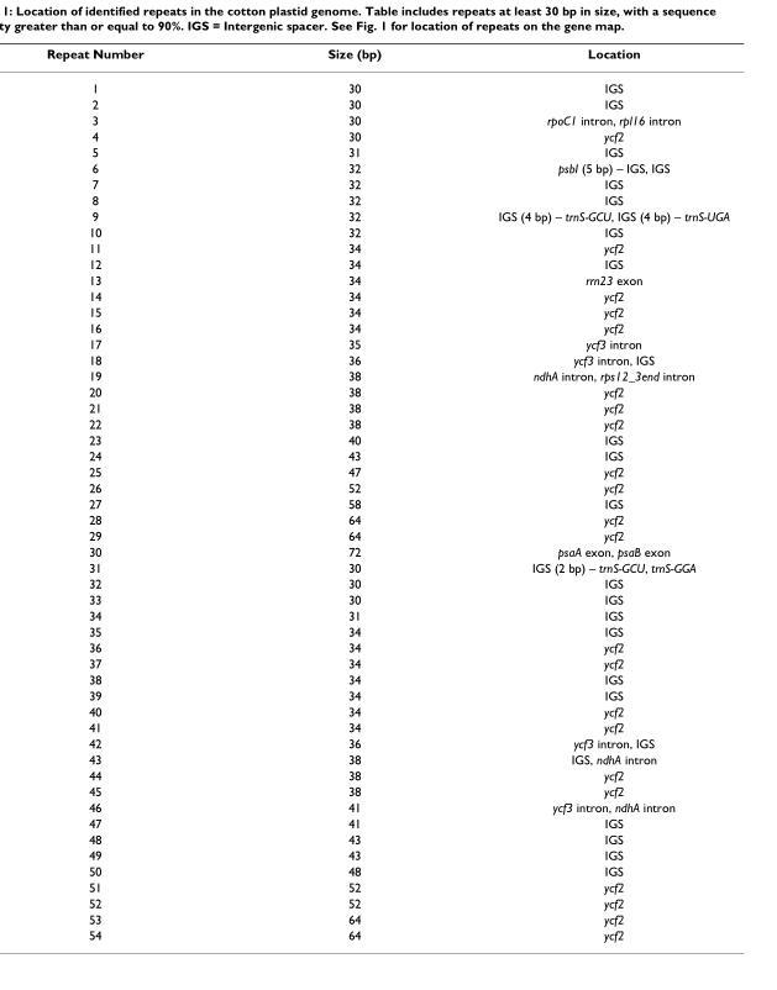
<table><thead><tr><td>Repeat Number</td><td>Size (bp)</td><td>Location</td></tr></thead><tbody><tr><td>1</td><td>30</td><td>IGS</td></tr><tr><td>2</td><td>30</td><td>IGS</td></tr><tr><td>3</td><td>30</td><td>rpoC1 intron, rpl16 intron</td></tr><tr><td>4</td><td>30</td><td>ycf2</td></tr><tr><td>5</td><td>31</td><td>IGS</td></tr><tr><td>6</td><td>32</td><td>psbI (5 bp) – IGS, IGS</td></tr><tr><td>7</td><td>32</td><td>IGS</td></tr><tr><td>8</td><td>32</td><td>IGS</td></tr><tr><td>9</td><td>32</td><td>IGS (4 bp) – trnS-GCU, IGS (4 bp) – trnS-UGA</td></tr><tr><td>10</td><td>32</td><td>IGS</td></tr><tr><td>11</td><td>34</td><td>ycf2</td></tr><tr><td>12</td><td>34</td><td>IGS</td></tr><tr><td>13</td><td>34</td><td>rrn23 exon</td></tr><tr><td>14</td><td>34</td><td>ycf2</td></tr><tr><td>15</td><td>34</td><td>ycf2</td></tr><tr><td>16</td><td>34</td><td>ycf2</td></tr><tr><td>17</td><td>35</td><td>ycf3 intron</td></tr><tr><td>18</td><td>36</td><td>ycf3 intron, IGS</td></tr><tr><td>19</td><td>38</td><td>ndhA intron, rps12_3end intron</td></tr><tr><td>20</td><td>38</td><td>ycf2</td></tr><tr><td>21</td><td>38</td><td>ycf2</td></tr><tr><td>22</td><td>38</td><td>ycf2</td></tr><tr><td>23</td><td>40</td><td>IGS</td></tr><tr><td>24</td><td>43</td><td>IGS</td></tr><tr><td>25</td><td>47</td><td>ycf2</td></tr><tr><td>26</td><td>52</td><td>ycf2</td></tr><tr><td>27</td><td>58</td><td>IGS</td></tr><tr><td>28</td><td>64</td><td>ycf2</td></tr><tr><td>29</td><td>64</td><td>ycf2</td></tr><tr><td>30</td><td>72</td><td>psaA exon, psaB exon</td></tr><tr><td>31</td><td>30</td><td>IGS (2 bp) – trnS-GCU, trnS-GGA</td></tr><tr><td>32</td><td>30</td><td>IGS</td></tr><tr><td>33</td><td>30</td><td>IGS</td></tr><tr><td>34</td><td>31</td><td>IGS</td></tr><tr><td>35</td><td>34</td><td>IGS</td></tr><tr><td>36</td><td>34</td><td>ycf2</td></tr><tr><td>37</td><td>34</td><td>ycf2</td></tr><tr><td>38</td><td>34</td><td>IGS</td></tr><tr><td>39</td><td>34</td><td>IGS</td></tr><tr><td>40</td><td>34</td><td>ycf2</td></tr><tr><td>41</td><td>34</td><td>ycf2</td></tr><tr><td>42</td><td>36</td><td>ycf3 intron, IGS</td></tr><tr><td>43</td><td>38</td><td>IGS, ndhA intron</td></tr><tr><td>44</td><td>38</td><td>ycf2</td></tr><tr><td>45</td><td>38</td><td>ycf2</td></tr><tr><td>46</td><td>41</td><td>ycf3 intron, ndhA intron</td></tr><tr><td>47</td><td>41</td><td>IGS</td></tr><tr><td>48</td><td>43</td><td>IGS</td></tr><tr><td>49</td><td>43</td><td>IGS</td></tr><tr><td>50</td><td>48</td><td>IGS</td></tr><tr><td>51</td><td>52</td><td>ycf2</td></tr><tr><td>52</td><td>52</td><td>ycf2</td></tr><tr><td>53</td><td>64</td><td>ycf2</td></tr><tr><td>54</td><td>64</td><td>ycf2</td></tr></tbody></table>